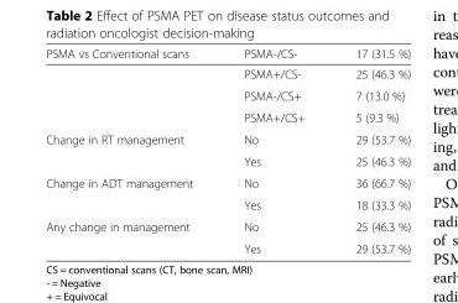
<table><thead><tr><td>PSMA vs Conventional scans</td><td>PSMA-/CS-</td><td>17 (31.5 %)</td></tr></thead><tbody><tr><td></td><td>PSMA+/CS-</td><td>25 (46.3 %)</td></tr><tr><td></td><td>PSMA-/CS+</td><td>7 (13.0 %)</td></tr><tr><td></td><td>PSMA+/CS+</td><td>5 (9.3 %)</td></tr><tr><td rowspan="2">Change in RT management</td><td>No</td><td>29 (53.7 %)</td></tr><tr><td>Yes</td><td>25 (46.3 %)</td></tr><tr><td rowspan="2">Change in ADT management</td><td>No</td><td>36 (66.7 %)</td></tr><tr><td>Yes</td><td>18 (33.3 %)</td></tr><tr><td rowspan="2">Any change in management</td><td>No</td><td>25 (46.3 %)</td></tr><tr><td>Yes</td><td>29 (53.7 %)</td></tr></tbody></table>